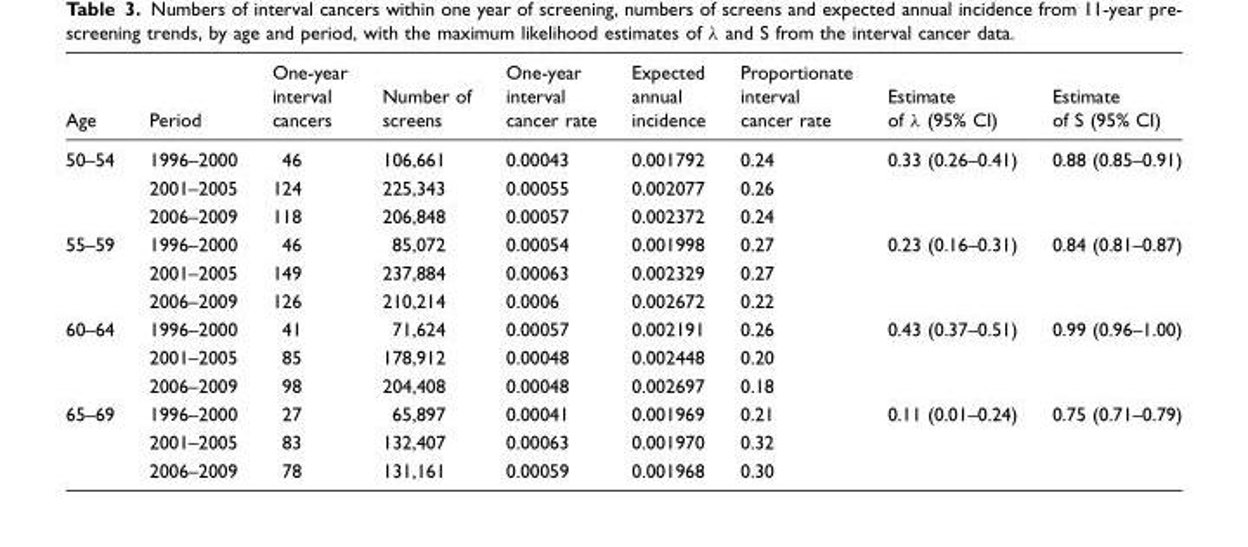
<table><thead><tr><td>Age</td><td>Period</td><td>One-year interval cancers</td><td>Number of screens</td><td>One-year interval cancer rate</td><td>Expected annual incidence</td><td>Proportionate interval cancer rate</td><td>Estimate of λ (95% CI)</td><td>Estimate of S (95% CI)</td></tr></thead><tbody><tr><td rowspan="3">50–54</td><td>1996–2000</td><td>46</td><td>106,661</td><td>0.00043</td><td>0.001792</td><td>0.24</td><td rowspan="3">0.33 (0.26–0.41)</td><td rowspan="3">0.88 (0.85–0.91)</td></tr><tr><td>2001–2005</td><td>124</td><td>225,343</td><td>0.00055</td><td>0.002077</td><td>0.26</td></tr><tr><td>2006–2009</td><td>118</td><td>206,848</td><td>0.00057</td><td>0.002372</td><td>0.24</td></tr><tr><td rowspan="3">55–59</td><td>1996–2000</td><td>46</td><td>85,072</td><td>0.00054</td><td>0.001998</td><td>0.27</td><td rowspan="3">0.23 (0.16–0.31)</td><td rowspan="3">0.84 (0.81–0.87)</td></tr><tr><td>2001–2005</td><td>149</td><td>237,884</td><td>0.00063</td><td>0.002329</td><td>0.27</td></tr><tr><td>2006–2009</td><td>126</td><td>210,214</td><td>0.0006</td><td>0.002672</td><td>0.22</td></tr><tr><td rowspan="3">60–64</td><td>1996–2000</td><td>41</td><td>71,624</td><td>0.00057</td><td>0.002191</td><td>0.26</td><td rowspan="3">0.43 (0.37–0.51)</td><td rowspan="3">0.99 (0.96–1.00)</td></tr><tr><td>2001–2005</td><td>85</td><td>178,912</td><td>0.00048</td><td>0.002448</td><td>0.20</td></tr><tr><td>2006–2009</td><td>98</td><td>204,408</td><td>0.00048</td><td>0.002697</td><td>0.18</td></tr><tr><td rowspan="3">65–69</td><td>1996–2000</td><td>27</td><td>65,897</td><td>0.00041</td><td>0.001969</td><td>0.21</td><td rowspan="3">0.11 (0.01–0.24)</td><td rowspan="3">0.75 (0.71–0.79)</td></tr><tr><td>2001–2005</td><td>83</td><td>132,407</td><td>0.00063</td><td>0.001970</td><td>0.32</td></tr><tr><td>2006–2009</td><td>78</td><td>131,161</td><td>0.00059</td><td>0.001968</td><td>0.30</td></tr></tbody></table>